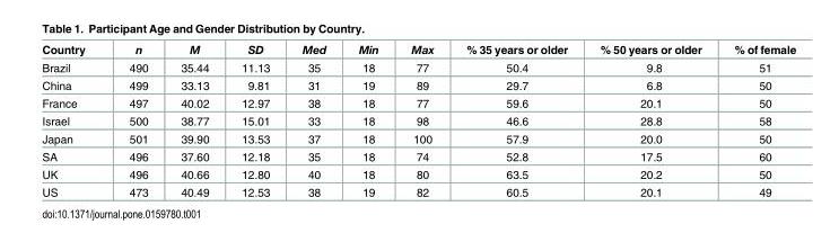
<table><thead><tr><td>Country</td><td>n</td><td>M</td><td>SD</td><td>Med</td><td>Min</td><td>Max</td><td>% 35 years or older</td><td>% 50 years or older</td><td>% of female</td></tr></thead><tbody><tr><td>Brazil</td><td>490</td><td>35.44</td><td>11.13</td><td>35</td><td>18</td><td>77</td><td>50.4</td><td>9.8</td><td>51</td></tr><tr><td>China</td><td>499</td><td>33.13</td><td>9.81</td><td>31</td><td>19</td><td>89</td><td>29.7</td><td>6.8</td><td>50</td></tr><tr><td>France</td><td>497</td><td>40.02</td><td>12.97</td><td>38</td><td>18</td><td>77</td><td>59.6</td><td>20.1</td><td>50</td></tr><tr><td>Israel</td><td>500</td><td>38.77</td><td>15.01</td><td>33</td><td>18</td><td>98</td><td>46.6</td><td>28.8</td><td>58</td></tr><tr><td>Japan</td><td>501</td><td>39.90</td><td>13.53</td><td>37</td><td>18</td><td>100</td><td>57.9</td><td>20.0</td><td>50</td></tr><tr><td>SA</td><td>496</td><td>37.60</td><td>12.18</td><td>35</td><td>18</td><td>74</td><td>52.8</td><td>17.5</td><td>60</td></tr><tr><td>UK</td><td>496</td><td>40.66</td><td>12.80</td><td>40</td><td>18</td><td>80</td><td>63.5</td><td>20.2</td><td>50</td></tr><tr><td>US</td><td>473</td><td>40.49</td><td>12.53</td><td>38</td><td>19</td><td>82</td><td>60.5</td><td>20.1</td><td>49</td></tr></tbody></table>